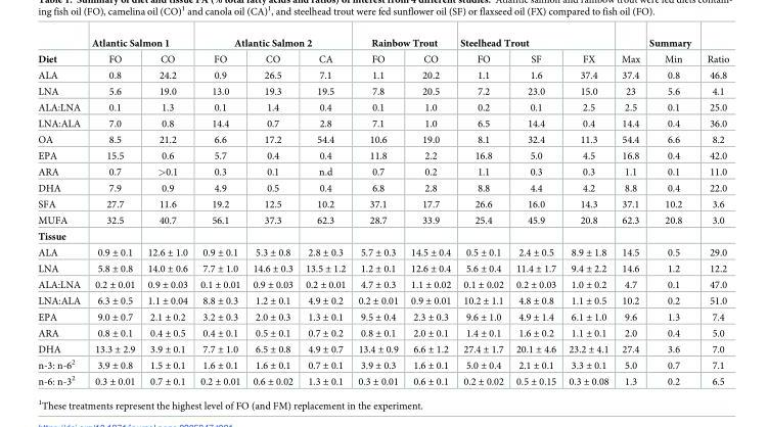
<table><thead><tr><td rowspan="2">Diet</td><td colspan="2">Atlantic Salmon 1</td><td colspan="3">Atlantic Salmon 2</td><td colspan="2">Rainbow Trout</td><td colspan="3">Steelhead Trout</td><td rowspan="2">Max</td><td rowspan="2">Summary Min</td><td rowspan="2">Ratio</td></tr><tr><td>FO</td><td>CO</td><td>FO</td><td>CO</td><td>CA</td><td>FO</td><td>CO</td><td>FO</td><td>SF</td><td>FX</td></tr></thead><tbody><tr><td>ALA</td><td>0.8</td><td>24.2</td><td>0.9</td><td>26.5</td><td>7.1</td><td>1.1</td><td>20.2</td><td>1.1</td><td>1.6</td><td>37.4</td><td>37.4</td><td>0.8</td><td>46.8</td></tr><tr><td>LNA</td><td>5.6</td><td>19.0</td><td>13.0</td><td>19.3</td><td>19.5</td><td>7.8</td><td>20.5</td><td>7.2</td><td>23.0</td><td>15.0</td><td>23</td><td>5.6</td><td>4.1</td></tr><tr><td>ALA:LNA</td><td>0.1</td><td>1.3</td><td>0.1</td><td>1.4</td><td>0.4</td><td>0.1</td><td>1.0</td><td>0.2</td><td>0.1</td><td>2.5</td><td>2.5</td><td>0.1</td><td>25.0</td></tr><tr><td>LNA:ALA</td><td>7.0</td><td>0.8</td><td>14.4</td><td>0.7</td><td>2.8</td><td>7.1</td><td>1.0</td><td>6.5</td><td>14.4</td><td>0.4</td><td>14.4</td><td>0.4</td><td>36.0</td></tr><tr><td>OA</td><td>8.5</td><td>21.2</td><td>6.6</td><td>17.2</td><td>54.4</td><td>10.6</td><td>19.0</td><td>8.1</td><td>32.4</td><td>11.3</td><td>54.4</td><td>6.6</td><td>8.2</td></tr><tr><td>EPA</td><td>15.5</td><td>0.6</td><td>5.7</td><td>0.4</td><td>0.4</td><td>11.8</td><td>2.2</td><td>16.8</td><td>5.0</td><td>4.5</td><td>16.8</td><td>0.4</td><td>42.0</td></tr><tr><td>ARA</td><td>0.7</td><td>&gt;0.1</td><td>0.3</td><td>0.1</td><td>n.d</td><td>0.7</td><td>0.2</td><td>1.1</td><td>0.3</td><td>0.3</td><td>1.1</td><td>0.1</td><td>11.0</td></tr><tr><td>DHA</td><td>7.9</td><td>0.9</td><td>4.9</td><td>0.5</td><td>0.4</td><td>6.8</td><td>2.8</td><td>8.8</td><td>4.4</td><td>4.2</td><td>8.8</td><td>0.4</td><td>22.0</td></tr><tr><td>SFA</td><td>27.7</td><td>11.6</td><td>19.2</td><td>12.5</td><td>10.2</td><td>37.1</td><td>17.7</td><td>26.6</td><td>16.0</td><td>14.3</td><td>37.1</td><td>10.2</td><td>3.6</td></tr><tr><td>MUFA</td><td>32.5</td><td>40.7</td><td>56.1</td><td>37.3</td><td>62.3</td><td>28.7</td><td>33.9</td><td>25.4</td><td>45.9</td><td>20.8</td><td>62.3</td><td>20.8</td><td>3.0</td></tr><tr><td colspan="14">Tissue</td></tr><tr><td>ALA</td><td>0.9 ± 0.1</td><td>12.6 ± 1.0</td><td>0.9 ± 0.1</td><td>5.3 ± 0.8</td><td>2.8 ± 0.3</td><td>5.7 ± 0.3</td><td>14.5 ± 0.4</td><td>0.5 ± 0.1</td><td>2.4 ± 0.5</td><td>8.9 ± 1.8</td><td>14.5</td><td>0.5</td><td>29.0</td></tr><tr><td>LNA</td><td>5.8 ± 0.8</td><td>14.0 ± 0.6</td><td>7.7 ± 1.0</td><td>14.6 ± 0.3</td><td>13.5 ± 1.2</td><td>1.2 ± 0.1</td><td>12.6 ± 0.4</td><td>5.6 ± 0.4</td><td>11.4 ± 1.7</td><td>9.4 ± 2.2</td><td>14.6</td><td>1.2</td><td>12.2</td></tr><tr><td>ALA:LNA</td><td>0.2 ± 0.01</td><td>0.9 ± 0.03</td><td>0.1 ± 0.01</td><td>0.9 ± 0.03</td><td>0.2 ± 0.01</td><td>4.7 ± 0.3</td><td>1.1 ± 0.02</td><td>0.1 ± 0.02</td><td>0.2 ± 0.03</td><td>1.0 ± 0.2</td><td>4.7</td><td>0.1</td><td>47.0</td></tr><tr><td>LNA:ALA</td><td>6.3 ± 0.5</td><td>1.1 ± 0.04</td><td>8.8 ± 0.3</td><td>1.2 ± 0.1</td><td>4.9 ± 0.2</td><td>0.2 ± 0.01</td><td>0.9 ± 0.01</td><td>10.2 ± 1.1</td><td>4.8 ± 0.8</td><td>1.1 ± 0.5</td><td>10.2</td><td>0.2</td><td>51.0</td></tr><tr><td>EPA</td><td>9.0 ± 0.7</td><td>2.1 ± 0.2</td><td>3.2 ± 0.3</td><td>2.0 ± 0.3</td><td>1.3 ± 0.1</td><td>9.5 ± 0.4</td><td>2.3 ± 0.3</td><td>9.6 ± 1.0</td><td>4.9 ± 1.4</td><td>6.1 ± 1.0</td><td>9.6</td><td>1.3</td><td>7.4</td></tr><tr><td>ARA</td><td>0.8 ± 0.1</td><td>0.4 ± 0.5</td><td>0.4 ± 0.1</td><td>0.5 ± 0.1</td><td>0.7 ± 0.2</td><td>0.8 ± 0.1</td><td>2.0 ± 0.1</td><td>1.4 ± 0.1</td><td>1.6 ± 0.2</td><td>1.1 ± 0.1</td><td>2.0</td><td>0.4</td><td>5.0</td></tr><tr><td>DHA</td><td>13.3 ± 2.9</td><td>3.9 ± 0.1</td><td>7.7 ± 1.0</td><td>6.5 ± 0.8</td><td>4.9 ± 0.7</td><td>13.4 ± 0.9</td><td>6.6 ± 1.2</td><td>27.4 ± 1.7</td><td>20.1 ± 4.6</td><td>23.2 ± 4.1</td><td>27.4</td><td>3.6</td><td>7.0</td></tr><tr><td>n-3: n-6<sup>2</sup></td><td>3.9 ± 0.8</td><td>1.5 ± 0.1</td><td>1.6 ± 0.1</td><td>1.6 ± 0.1</td><td>0.7 ± 0.1</td><td>3.9 ± 0.3</td><td>1.6 ± 0.1</td><td>5.0 ± 0.4</td><td>2.1 ± 0.1</td><td>3.3 ± 0.1</td><td>5.0</td><td>0.7</td><td>7.1</td></tr><tr><td>n-6: n-3<sup>2</sup></td><td>0.3 ± 0.01</td><td>0.7 ± 0.1</td><td>0.2 ± 0.01</td><td>0.6 ± 0.02</td><td>1.3 ± 0.1</td><td>0.3 ± 0.01</td><td>0.6 ± 0.1</td><td>0.2 ± 0.02</td><td>0.5 ± 0.15</td><td>0.3 ± 0.08</td><td>1.3</td><td>0.2</td><td>6.5</td></tr></tbody></table>